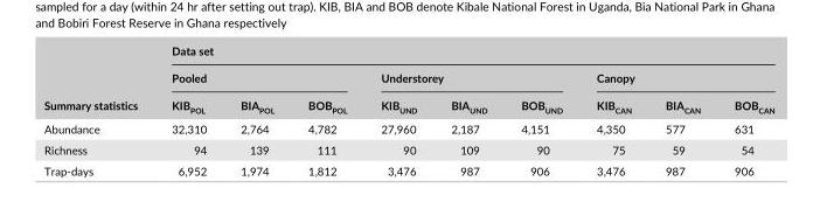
<table><thead><tr><td rowspan="3">Summary statistics</td><td colspan="9">Data set</td></tr><tr><td colspan="3">Pooled</td><td colspan="3">Understorey</td><td colspan="3">Canopy</td></tr><tr><td>KIB<sub>POL</sub></td><td>BIA<sub>POL</sub></td><td>BOB<sub>POL</sub></td><td>KIB<sub>UND</sub></td><td>BIA<sub>UND</sub></td><td>BOB<sub>UND</sub></td><td>KIB<sub>CAN</sub></td><td>BIA<sub>CAN</sub></td><td>BOB<sub>CAN</sub></td></tr></thead><tbody><tr><td>Abundance</td><td>32,310</td><td>2,764</td><td>4,782</td><td>27,960</td><td>2,187</td><td>4,151</td><td>4,350</td><td>577</td><td>631</td></tr><tr><td>Richness</td><td>94</td><td>139</td><td>111</td><td>90</td><td>109</td><td>90</td><td>75</td><td>59</td><td>54</td></tr><tr><td>Trap- days</td><td>6,952</td><td>1,974</td><td>1,812</td><td>3,476</td><td>987</td><td>906</td><td>3,476</td><td>987</td><td>906</td></tr></tbody></table>